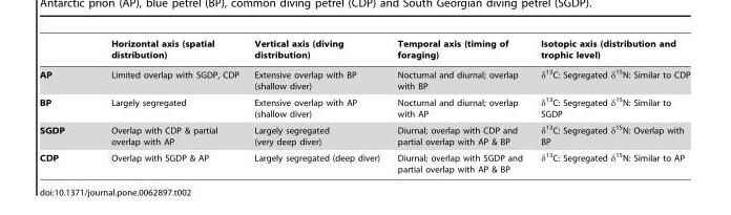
<table><thead><tr><td></td><td>Horizontal axis (spatial distribution)</td><td>Vertical axis (diving distribution)</td><td>Temporal axis (timing of foraging)</td><td>Isotopic axis (distribution and trophic level)</td></tr></thead><tbody><tr><td>AP</td><td>Limited overlap with SGDP, CDP</td><td>Extensive overlap with BP (shallow diver)</td><td>Nocturnal and diurnal; overlap with BP</td><td>δ<sup>13</sup>C: Segregated δ<sup>15</sup>N: Similar to CDP</td></tr><tr><td>BP</td><td>Largely segregated</td><td>Extensive overlap with AP (shallow diver)</td><td>Nocturnal and diurnal; overlap with AP</td><td>δ<sup>13</sup>C: Segregated δ<sup>15</sup>N: Similar to SGDP</td></tr><tr><td>SGDP</td><td>Overlap with CDP &amp; partial overlap with AP</td><td>Largely segregated (very deep diver)</td><td>Diurnal; overlap with CDP and partial overlap with AP &amp; BP</td><td>δ<sup>13</sup>C: Segregated δ<sup>15</sup>N: Overlap with BP</td></tr><tr><td>CDP</td><td>Overlap with SGDP &amp; AP</td><td>Largely segregated (deep diver)</td><td>Diurnal; overlap with SGDP and partial overlap with AP &amp; BP</td><td>δ<sup>13</sup>C: Segregated δ<sup>15</sup>N: Similar to AP</td></tr></tbody></table>